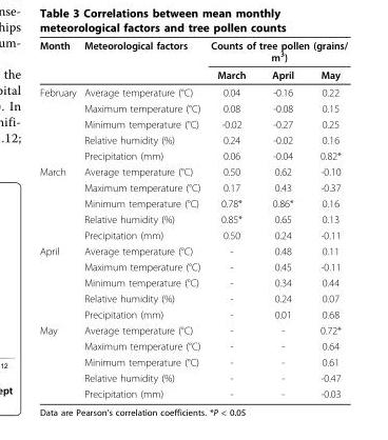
<table><tbody><tr><td rowspan="2">Month</td><td>Meteorological factors</td><td colspan="3">Counts of tree pollen (grains/ m<sup>3</sup>)</td></tr><tr><td></td><td>March</td><td>April</td><td>May</td></tr><tr><td rowspan="5">February</td><td>Average temperature (°C)</td><td>0.04</td><td>-0.16</td><td>0.22</td></tr><tr><td>Maximum temperature (°C)</td><td>0.08</td><td>-0.08</td><td>0.15</td></tr><tr><td>Minimum temperature (°C)</td><td>-0.02</td><td>-0.27</td><td>0.25</td></tr><tr><td>Relative humidity (%)</td><td>0.24</td><td>-0.02</td><td>0.16</td></tr><tr><td>Precipitation (mm)</td><td>0.06</td><td>-0.04</td><td>0.82*</td></tr><tr><td rowspan="5">March</td><td>Average temperature (°C)</td><td>0.50</td><td>0.62</td><td>-0.10</td></tr><tr><td>Maximum temperature (°C)</td><td>0.17</td><td>0.43</td><td>-0.37</td></tr><tr><td>Minimum temperature (°C)</td><td>0.78*</td><td>0.86*</td><td>0.16</td></tr><tr><td>Relative humidity (%)</td><td>0.85*</td><td>0.65</td><td>0.13</td></tr><tr><td>Precipitation (mm)</td><td>0.50</td><td>0.24</td><td>-0.11</td></tr><tr><td rowspan="5">April</td><td>Average temperature (°C)</td><td>-</td><td>0.48</td><td>0.11</td></tr><tr><td>Maximum temperature (°C)</td><td>-</td><td>0.45</td><td>-0.11</td></tr><tr><td>Minimum temperature (°C)</td><td>-</td><td>0.34</td><td>0.44</td></tr><tr><td>Relative humidity (%)</td><td>-</td><td>0.24</td><td>0.07</td></tr><tr><td>Precipitation (mm)</td><td>-</td><td>0.01</td><td>0.68</td></tr><tr><td rowspan="5">May</td><td>Average temperature (°C)</td><td>-</td><td>-</td><td>0.72*</td></tr><tr><td>Maximum temperature (°C)</td><td>-</td><td>-</td><td>0.64</td></tr><tr><td>Minimum temperature (°C)</td><td>-</td><td>-</td><td>0.61</td></tr><tr><td>Relative humidity (%)</td><td>-</td><td>-</td><td>-0.47</td></tr><tr><td>Precipitation (mm)</td><td>-</td><td>-</td><td>-0.03</td></tr></tbody></table>